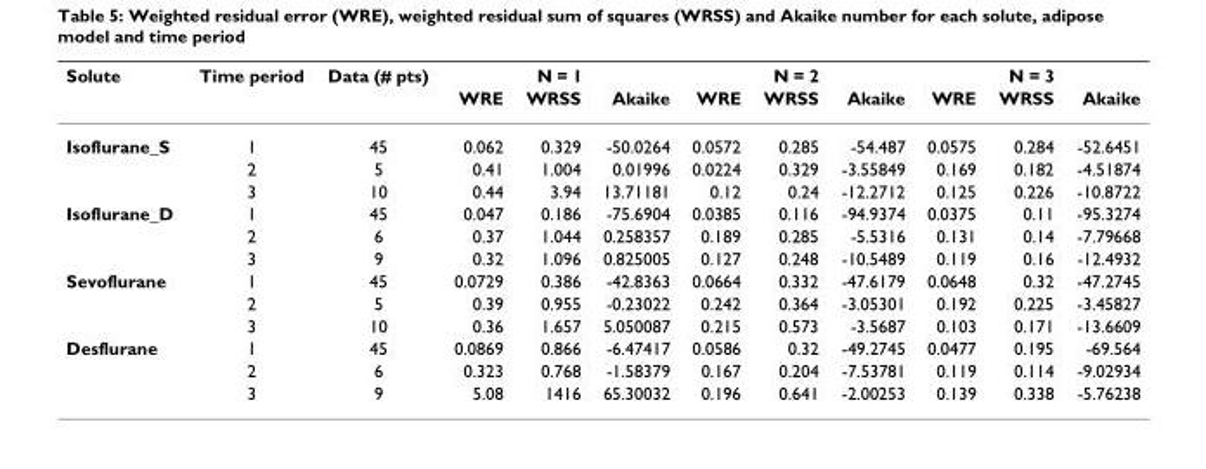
<table><thead><tr><td rowspan="2">Solute</td><td rowspan="2">Time period</td><td rowspan="2">Data (# pts)</td><td colspan="3">N = 1</td><td colspan="3">N = 2</td><td colspan="3">N = 3</td></tr><tr><td>WRE</td><td>WRSS</td><td>Akaike</td><td>WRE</td><td>WRSS</td><td>Akaike</td><td>WRE</td><td>WRSS</td><td>Akaike</td></tr></thead><tbody><tr><td rowspan="3">Isoflurane_S</td><td>1</td><td>45</td><td>0.062</td><td>0.329</td><td>-50.0264</td><td>0.0572</td><td>0.285</td><td>-54.487</td><td>0.0575</td><td>0.284</td><td>-52.6451</td></tr><tr><td>2</td><td>5</td><td>0.41</td><td>1.004</td><td>0.01996</td><td>0.0224</td><td>0.329</td><td>-3.55849</td><td>0.169</td><td>0.182</td><td>-4.51874</td></tr><tr><td>3</td><td>10</td><td>0.44</td><td>3.94</td><td>13.71181</td><td>0.12</td><td>0.24</td><td>-12.2712</td><td>0.125</td><td>0.226</td><td>-10.8722</td></tr><tr><td rowspan="3">Isoflurane_D</td><td>1</td><td>45</td><td>0.047</td><td>0.186</td><td>-75.6904</td><td>0.0385</td><td>0.116</td><td>-94.9374</td><td>0.0375</td><td>0.11</td><td>-95.3274</td></tr><tr><td>2</td><td>6</td><td>0.37</td><td>1.044</td><td>0.258357</td><td>0.189</td><td>0.285</td><td>-5.5316</td><td>0.131</td><td>0.14</td><td>-7.79668</td></tr><tr><td>3</td><td>9</td><td>0.32</td><td>1.096</td><td>0.825005</td><td>0.127</td><td>0.248</td><td>-10.5489</td><td>0.119</td><td>0.16</td><td>-12.4932</td></tr><tr><td rowspan="3">Sevoflurane</td><td>1</td><td>45</td><td>0.0729</td><td>0.386</td><td>-42.8363</td><td>0.0664</td><td>0.332</td><td>-47.6179</td><td>0.0648</td><td>0.32</td><td>-47.2745</td></tr><tr><td>2</td><td>5</td><td>0.39</td><td>0.955</td><td>-0.23022</td><td>0.242</td><td>0.364</td><td>-3.05301</td><td>0.192</td><td>0.225</td><td>-3.45827</td></tr><tr><td>3</td><td>10</td><td>0.36</td><td>1.657</td><td>5.050087</td><td>0.215</td><td>0.573</td><td>-3.5687</td><td>0.103</td><td>0.171</td><td>-13.6609</td></tr><tr><td rowspan="3">Desflurane</td><td>1</td><td>45</td><td>0.0869</td><td>0.866</td><td>-6.47417</td><td>0.0586</td><td>0.32</td><td>-49.2745</td><td>0.0477</td><td>0.195</td><td>-69.564</td></tr><tr><td>2</td><td>6</td><td>0.323</td><td>0.768</td><td>-1.58379</td><td>0.167</td><td>0.204</td><td>-7.53781</td><td>0.119</td><td>0.114</td><td>-9.02934</td></tr><tr><td>3</td><td>9</td><td>5.08</td><td>1416</td><td>65.30032</td><td>0.196</td><td>0.641</td><td>-2.00253</td><td>0.139</td><td>0.338</td><td>-5.76238</td></tr></tbody></table>